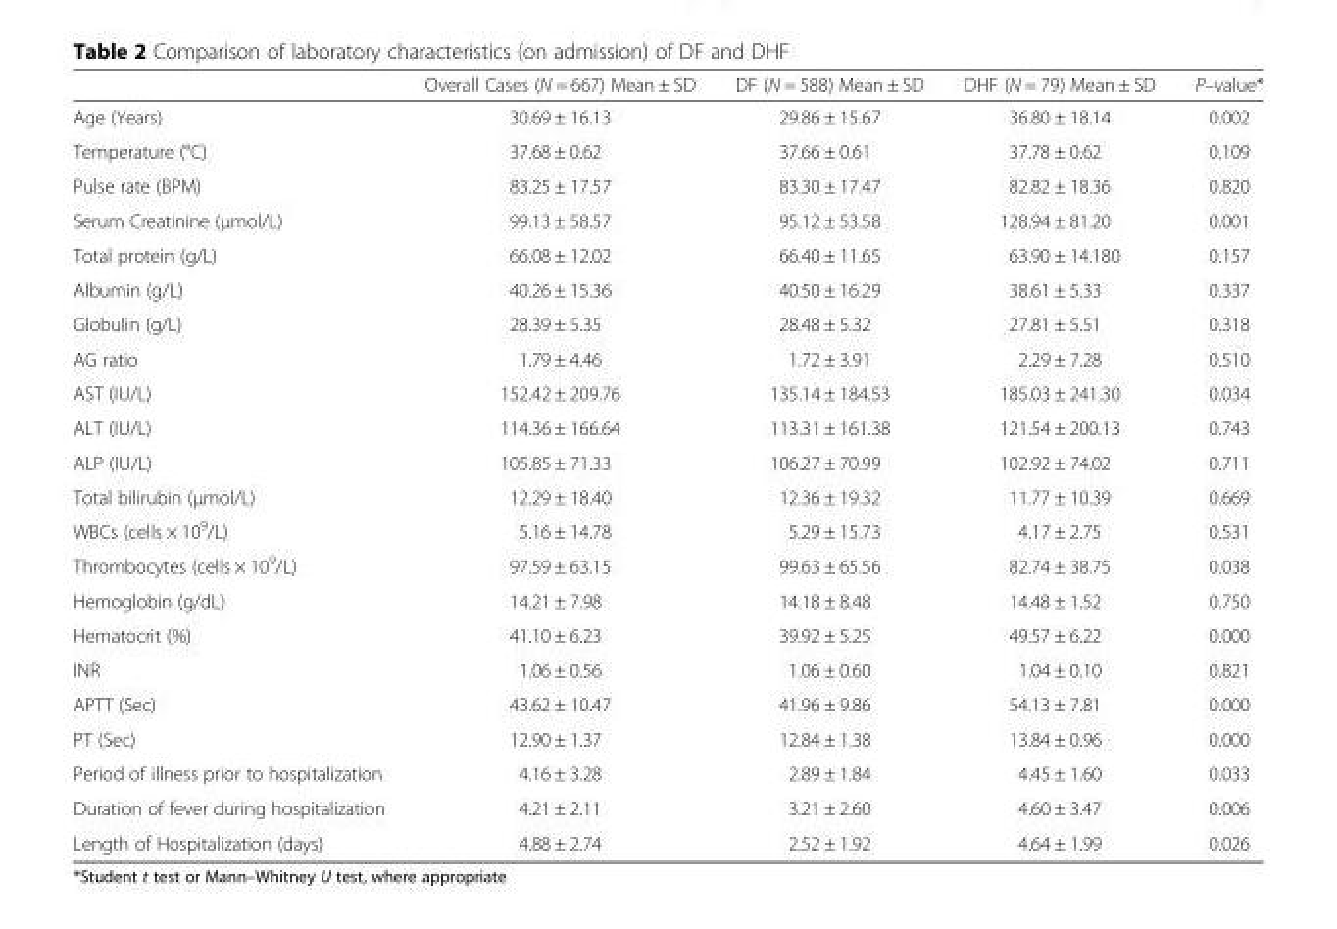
<table><thead><tr><td></td><td>Overall Cases (N = 667) Mean ± SD</td><td>DF (N = 588) Mean ± SD</td><td>DHF (N = 79) Mean ± SD</td><td>P–value*</td></tr></thead><tbody><tr><td>Age (Years)</td><td>30.69 ± 16.13</td><td>29.86 ± 15.67</td><td>36.80 ± 18.14</td><td>0.002</td></tr><tr><td>Temperature (°C)</td><td>37.68 ± 0.62</td><td>37.66 ± 0.61</td><td>37.78 ± 0.62</td><td>0.109</td></tr><tr><td>Pulse rate (BPM)</td><td>83.25 ± 17.57</td><td>83.30 ± 17.47</td><td>82.82 ± 18.36</td><td>0.820</td></tr><tr><td>Serum Creatinine (μmol/L)</td><td>99.13 ± 58.57</td><td>95.12 ± 53.58</td><td>128.94 ± 81.20</td><td>0.001</td></tr><tr><td>Total protein (g/L)</td><td>66.08 ± 12.02</td><td>66.40 ± 11.65</td><td>63.90 ± 14.180</td><td>0.157</td></tr><tr><td>Albumin (g/L)</td><td>40.26 ± 15.36</td><td>40.50 ± 16.29</td><td>38.61 ± 5.33</td><td>0.337</td></tr><tr><td>Globulin (g/L)</td><td>28.39 ± 5.35</td><td>28.48 ± 5.32</td><td>27.81 ± 5.51</td><td>0.318</td></tr><tr><td>AG ratio</td><td>1.79 ± 4.46</td><td>1.72 ± 3.91</td><td>2.29 ± 7.28</td><td>0.510</td></tr><tr><td>AST (IU/L)</td><td>152.42 ± 209.76</td><td>135.14 ± 184.53</td><td>185.03 ± 241.30</td><td>0.034</td></tr><tr><td>ALT (IU/L)</td><td>114.36 ± 166.64</td><td>113.31 ± 161.38</td><td>121.54 ± 200.13</td><td>0.743</td></tr><tr><td>ALP (IU/L)</td><td>105.85 ± 71.33</td><td>106.27 ± 70.99</td><td>102.92 ± 74.02</td><td>0.711</td></tr><tr><td>Total bilirubin (μmol/L)</td><td>12.29 ± 18.40</td><td>12.36 ± 19.32</td><td>11.77 ± 10.39</td><td>0.669</td></tr><tr><td>WBCs (cells × 10<sup>9</sup>/L)</td><td>5.16 ± 14.78</td><td>5.29 ± 15.73</td><td>4.17 ± 2.75</td><td>0.531</td></tr><tr><td>Thrombocytes (cells × 10<sup>9</sup>/L)</td><td>97.59 ± 63.15</td><td>99.63 ± 65.56</td><td>82.74 ± 38.75</td><td>0.038</td></tr><tr><td>Hemoglobin (g/dL)</td><td>14.21 ± 7.98</td><td>14.18 ± 8.48</td><td>14.48 ± 1.52</td><td>0.750</td></tr><tr><td>Hematocrit (%)</td><td>41.10 ± 6.23</td><td>39.92 ± 5.25</td><td>49.57 ± 6.22</td><td>0.000</td></tr><tr><td>INR</td><td>1.06 ± 0.56</td><td>1.06 ± 0.60</td><td>1.04 ± 0.10</td><td>0.821</td></tr><tr><td>APTT (Sec)</td><td>43.62 ± 10.47</td><td>41.96 ± 9.86</td><td>54.13 ± 7.81</td><td>0.000</td></tr><tr><td>PT (Sec)</td><td>12.90 ± 1.37</td><td>12.84 ± 1.38</td><td>13.84 ± 0.96</td><td>0.000</td></tr><tr><td>Period of illness prior to hospitalization</td><td>4.16 ± 3.28</td><td>2.89 ± 1.84</td><td>4.45 ± 1.60</td><td>0.033</td></tr><tr><td>Duration of fever during hospitalization</td><td>4.21 ± 2.11</td><td>3.21 ± 2.60</td><td>4.60 ± 3.47</td><td>0.006</td></tr><tr><td>Length of Hospitalization (days)</td><td>4.88 ± 2.74</td><td>2.52 ± 1.92</td><td>4.64 ± 1.99</td><td>0.026</td></tr></tbody></table>